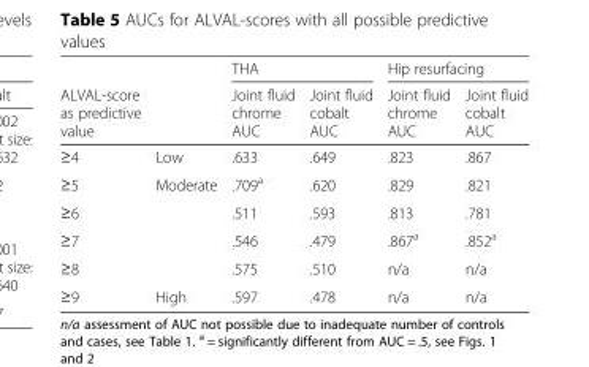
<table><thead><tr><td rowspan="2">ALVAL-score as predictive value</td><td rowspan="2"></td><td colspan="2">THA</td><td colspan="2">Hip resurfacing</td></tr><tr><td>Joint fluid chrome AUC</td><td>Joint fluid cobalt AUC</td><td>Joint fluid chrome AUC</td><td>Joint fluid cobalt AUC</td></tr></thead><tbody><tr><td>≥4</td><td>Low</td><td>.633</td><td>.649</td><td>.823</td><td>.867</td></tr><tr><td>≥5</td><td>Moderate</td><td>.709<sup>a</sup></td><td>.620</td><td>.829</td><td>.821</td></tr><tr><td>≥6</td><td></td><td>.511</td><td>.593</td><td>.813</td><td>.781</td></tr><tr><td>≥7</td><td></td><td>.546</td><td>.479</td><td>.867<sup>a</sup></td><td>.852<sup>a</sup></td></tr><tr><td>≥8</td><td></td><td>.575</td><td>.510</td><td>n/a</td><td>n/a</td></tr><tr><td>≥9</td><td>High</td><td>.597</td><td>.478</td><td>n/a</td><td>n/a</td></tr></tbody></table>